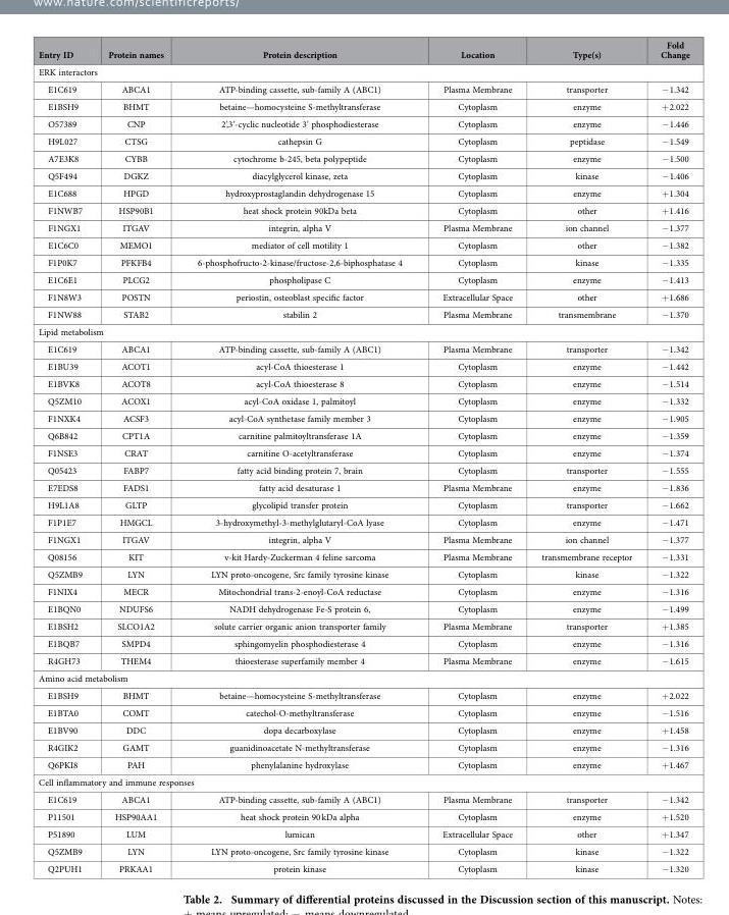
<table><thead><tr><td>Entry ID</td><td>Protein names</td><td>Protein description</td><td>Location</td><td>Type(s)</td><td>Fold Change</td></tr></thead><tbody><tr><td colspan="6">ERK interactors</td></tr><tr><td>E1C619</td><td>ABCA1</td><td>ATP-binding cassette, sub-family A (ABC1)</td><td>Plasma Membrane</td><td>transporter</td><td>− 1.342</td></tr><tr><td>E1BSH9</td><td>BHMT</td><td>betaine—homocysteine S-methyltransferase</td><td>Cytoplasm</td><td>enzyme</td><td>+ 2.022</td></tr><tr><td>O57389</td><td>CNP</td><td>2’,3’-cyclic nucleotide 3’ phosphodiesterase</td><td>Cytoplasm</td><td>enzyme</td><td>− 1.446</td></tr><tr><td>H9L027</td><td>CTSG</td><td>cathepsin G</td><td>Cytoplasm</td><td>peptidase</td><td>− 1.549</td></tr><tr><td>A7E3K8</td><td>CYBB</td><td>cytochrome b-245, beta polypeptide</td><td>Cytoplasm</td><td>enzyme</td><td>− 1.500</td></tr><tr><td>Q5F494</td><td>DGKZ</td><td>diacylglycerol kinase, zeta</td><td>Cytoplasm</td><td>kinase</td><td>− 1.406</td></tr><tr><td>E1C688</td><td>HPGD</td><td>hydroxyprostaglandin dehydrogenase 15</td><td>Cytoplasm</td><td>enzyme</td><td>+ 1.304</td></tr><tr><td>F1NWB7</td><td>HSP90B1</td><td>heat shock protein 90kDa beta</td><td>Cytoplasm</td><td>other</td><td>+ 1.416</td></tr><tr><td>F1NGX1</td><td>ITGAV</td><td>integrin, alpha V</td><td>Plasma Membrane</td><td>ion channel</td><td>− 1.377</td></tr><tr><td>E1C6C0</td><td>MEMO1</td><td>mediator of cell motility 1</td><td>Cytoplasm</td><td>other</td><td>− 1.382</td></tr><tr><td>F1P0K7</td><td>PFKFB4</td><td>6-phosphofructo-2-kinase/fructose-2,6-biphosphatase 4</td><td>Cytoplasm</td><td>kinase</td><td>− 1.335</td></tr><tr><td>E1C6E1</td><td>PLCG2</td><td>phospholipase C</td><td>Cytoplasm</td><td>enzyme</td><td>− 1.413</td></tr><tr><td>F1N8W3</td><td>POSTN</td><td>periostin, osteoblast specific factor</td><td>Extracellular Space</td><td>other</td><td>+ 1.686</td></tr><tr><td>F1NW88</td><td>STAB2</td><td>stabilin 2</td><td>Plasma Membrane</td><td>transmembrane</td><td>− 1.370</td></tr><tr><td colspan="6">Lipid metabolism</td></tr><tr><td>E1C619</td><td>ABCA1</td><td>ATP-binding cassette, sub-family A (ABC1)</td><td>Plasma Membrane</td><td>transporter</td><td>− 1.342</td></tr><tr><td>E1BU39</td><td>ACOT1</td><td>acyl-CoA thioesterase 1</td><td>Cytoplasm</td><td>enzyme</td><td>− 1.442</td></tr><tr><td>E1BVK8</td><td>ACOT8</td><td>acyl-CoA thioesterase 8</td><td>Cytoplasm</td><td>enzyme</td><td>− 1.514</td></tr><tr><td>Q5ZM10</td><td>ACOX1</td><td>acyl-CoA oxidase 1, palmitoyl</td><td>Cytoplasm</td><td>enzyme</td><td>− 1.332</td></tr><tr><td>F1NXK4</td><td>ACSF3</td><td>acyl-CoA synthetase family member 3</td><td>Cytoplasm</td><td>enzyme</td><td>− 1.905</td></tr><tr><td>Q6B842</td><td>CPT1A</td><td>carnitine palmitoyltransferase 1A</td><td>Cytoplasm</td><td>enzyme</td><td>− 1.359</td></tr><tr><td>F1NSE3</td><td>CRAT</td><td>carnitine O-acetyltransferase</td><td>Cytoplasm</td><td>enzyme</td><td>− 1.374</td></tr><tr><td>Q05423</td><td>FABP7</td><td>fatty acid binding protein 7, brain</td><td>Cytoplasm</td><td>transporter</td><td>− 1.555</td></tr><tr><td>E7EDS8</td><td>FADS1</td><td>fatty acid desaturase 1</td><td>Plasma Membrane</td><td>enzyme</td><td>− 1.836</td></tr><tr><td>H9L1A8</td><td>GLTP</td><td>glycolipid transfer protein</td><td>Cytoplasm</td><td>transporter</td><td>− 1.662</td></tr><tr><td>F1P1E7</td><td>HMGCL</td><td>3-hydroxymethyl-3-methylglutaryl-CoA lyase</td><td>Cytoplasm</td><td>enzyme</td><td>− 1.471</td></tr><tr><td>F1NGX1</td><td>ITGAV</td><td>integrin, alpha V</td><td>Plasma Membrane</td><td>ion channel</td><td>− 1.377</td></tr><tr><td>Q08156</td><td>KIT</td><td>v-kit Hardy-Zuckerman 4 feline sarcoma</td><td>Plasma Membrane</td><td>transmembrane receptor</td><td>− 1.331</td></tr><tr><td>Q5ZMB9</td><td>LYN</td><td>LYN proto-oncogene, Src family tyrosine kinase</td><td>Cytoplasm</td><td>kinase</td><td>− 1.322</td></tr><tr><td>F1NIX4</td><td>MECR</td><td>Mitochondrial trans-2-enoyl-CoA reductase</td><td>Cytoplasm</td><td>enzyme</td><td>− 1.316</td></tr><tr><td>E1BQN0</td><td>NDUFS6</td><td>NADH dehydrogenase Fe-S protein 6,</td><td>Cytoplasm</td><td>enzyme</td><td>− 1.499</td></tr><tr><td>E1BSH2</td><td>SLCO1A2</td><td>solute carrier organic anion transporter family</td><td>Plasma Membrane</td><td>transporter</td><td>+ 1.385</td></tr><tr><td>E1BQB7</td><td>SMPD4</td><td>sphingomyelin phosphodiesterase 4</td><td>Cytoplasm</td><td>enzyme</td><td>− 1.316</td></tr><tr><td>R4GH73</td><td>THEM4</td><td>thioesterase superfamily member 4</td><td>Plasma Membrane</td><td>enzyme</td><td>− 1.615</td></tr><tr><td colspan="6">Amino acid metabolism</td></tr><tr><td>E1BSH9</td><td>BHMT</td><td>betaine—homocysteine S-methyltransferase</td><td>Cytoplasm</td><td>enzyme</td><td>+ 2.022</td></tr><tr><td>E1BTA0</td><td>COMT</td><td>catechol-O-methyltransferase</td><td>Cytoplasm</td><td>enzyme</td><td>− 1.516</td></tr><tr><td>E1BV90</td><td>DDC</td><td>dopa decarboxylase</td><td>Cytoplasm</td><td>enzyme</td><td>+ 1.458</td></tr><tr><td>R4GIK2</td><td>GAMT</td><td>guanidinoacetate N-methyltransferase</td><td>Cytoplasm</td><td>enzyme</td><td>− 1.316</td></tr><tr><td>Q6PKI8</td><td>PAH</td><td>phenylalanine hydroxylase</td><td>Cytoplasm</td><td>enzyme</td><td>+ 1.467</td></tr><tr><td colspan="6">Cell inflammatory and immune responses</td></tr><tr><td>E1C619</td><td>ABCA1</td><td>ATP-binding cassette, sub-family A (ABC1)</td><td>Plasma Membrane</td><td>transporter</td><td>− 1.342</td></tr><tr><td>P11501</td><td>HSP90AA1</td><td>heat shock protein 90 kDa alpha</td><td>Cytoplasm</td><td>enzyme</td><td>+ 1.520</td></tr><tr><td>P51890</td><td>LUM</td><td>lumican</td><td>Extracellular Space</td><td>other</td><td>+ 1.347</td></tr><tr><td>Q5ZMB9</td><td>LYN</td><td>LYN proto-oncogene, Src family tyrosine kinase</td><td>Cytoplasm</td><td>kinase</td><td>− 1.322</td></tr><tr><td>Q2PUH1</td><td>PRKAA1</td><td>protein kinase</td><td>Cytoplasm</td><td>kinase</td><td>− 1.320</td></tr></tbody></table>